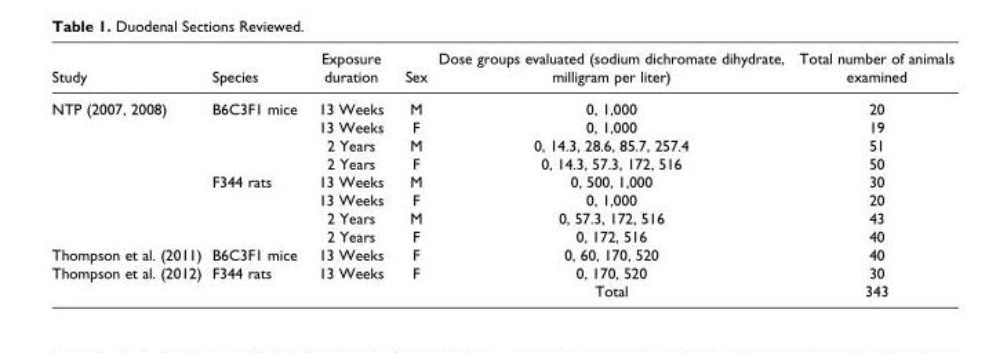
<table><thead><tr><td>Study</td><td>Species</td><td>Exposure duration</td><td>Sex</td><td>Dose groups evaluated (sodium dichromate dihydrate, milligram per liter)</td><td>Total number of animals examined</td></tr></thead><tbody><tr><td rowspan="8">NTP (2007, 2008)</td><td rowspan="4">B6C3F1 mice</td><td>13 Weeks</td><td>M</td><td>0, 1,000</td><td>20</td></tr><tr><td>13 Weeks</td><td>F</td><td>0, 1,000</td><td>19</td></tr><tr><td>2 Years</td><td>M</td><td>0, 14.3, 28.6, 85.7, 257.4</td><td>51</td></tr><tr><td>2 Years</td><td>F</td><td>0, 14.3, 57.3, 172, 516</td><td>50</td></tr><tr><td rowspan="4">F344 rats</td><td>13 Weeks</td><td>M</td><td>0, 500, 1,000</td><td>30</td></tr><tr><td>13 Weeks</td><td>F</td><td>0, 1,000</td><td>20</td></tr><tr><td>2 Years</td><td>M</td><td>0, 57.3, 172, 516</td><td>43</td></tr><tr><td>2 Years</td><td>F</td><td>0, 172, 516</td><td>40</td></tr><tr><td>Thompson et al. (2011)</td><td>B6C3F1 mice</td><td>13 Weeks</td><td>F</td><td>0, 60, 170, 520</td><td>40</td></tr><tr><td rowspan="2">Thompson et al. (2012)</td><td>F344 rats</td><td>13 Weeks</td><td>F</td><td>0, 170, 520</td><td>30</td></tr><tr><td></td><td></td><td></td><td>Total</td><td>343</td></tr></tbody></table>